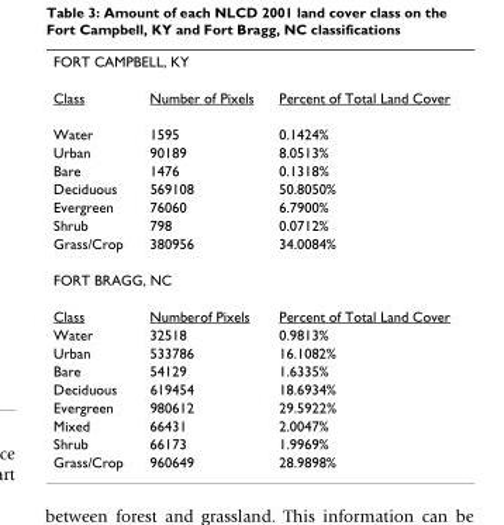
<table><tbody><tr><td colspan="3">FORT CAMPBELL, KY</td></tr><tr><td>Class</td><td>Number of Pixels</td><td>Percent of Total Land Cover</td></tr><tr><td>Water</td><td>1595</td><td>0.1424%</td></tr><tr><td>Urban</td><td>90189</td><td>8.0513%</td></tr><tr><td>Bare</td><td>1476</td><td>0.1318%</td></tr><tr><td>Deciduous</td><td>569108</td><td>50.8050%</td></tr><tr><td>Evergreen</td><td>76060</td><td>6.7900%</td></tr><tr><td>Shrub</td><td>798</td><td>0.0712%</td></tr><tr><td>Grass/Crop</td><td>380956</td><td>34.0084%</td></tr><tr><td colspan="3">FORT BRAGG, NC</td></tr><tr><td>Class</td><td>Numberof Pixels</td><td>Percent of Total Land Cover</td></tr><tr><td>Water</td><td>32518</td><td>0.9813%</td></tr><tr><td>Urban</td><td>533786</td><td>16.1082%</td></tr><tr><td>Bare</td><td>54129</td><td>1.6335%</td></tr><tr><td>Deciduous</td><td>619454</td><td>18.6934%</td></tr><tr><td>Evergreen</td><td>980612</td><td>29.5922%</td></tr><tr><td>Mixed</td><td>66431</td><td>2.0047%</td></tr><tr><td>Shrub</td><td>66173</td><td>1.9969%</td></tr><tr><td>Grass/Crop</td><td>960649</td><td>28.9898%</td></tr></tbody></table>